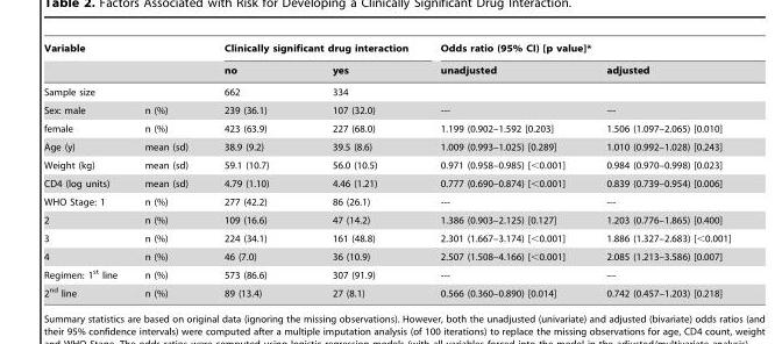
<table><thead><tr><td colspan="2">Variable</td><td colspan="2">Clinically significant drug interaction</td><td colspan="2">Odds ratio (95% CI) [p value]*</td></tr><tr><td></td><td></td><td>no</td><td>yes</td><td>unadjusted</td><td>adjusted</td></tr></thead><tbody><tr><td>Sample size</td><td></td><td>662</td><td>334</td><td></td><td></td></tr><tr><td>Sex: male</td><td>n (%)</td><td>239 (36.1)</td><td>107 (32.0)</td><td>---</td><td>---</td></tr><tr><td>female</td><td>n (%)</td><td>423 (63.9)</td><td>227 (68.0)</td><td>1.199 (0.902–1.592 [0.203]</td><td>1.506 (1.097–2.065) [0.010]</td></tr><tr><td>Age (y)</td><td>mean (sd)</td><td>38.9 (9.2)</td><td>39.5 (8.6)</td><td>1.009 (0.993–1.025) [0.289]</td><td>1.010 (0.992–1.028) [0.243]</td></tr><tr><td>Weight (kg)</td><td>mean (sd)</td><td>59.1 (10.7)</td><td>56.0 (10.5)</td><td>0.971 (0.958–0.985) [&lt;0.001]</td><td>0.984 (0.970–0.998) [0.023]</td></tr><tr><td>CD4 (log units)</td><td>mean (sd)</td><td>4.79 (1.10)</td><td>4.46 (1.21)</td><td>0.777 (0.690–0.874) [&lt;0.001]</td><td>0.839 (0.739–0.954) [0.006]</td></tr><tr><td>WHO Stage: 1</td><td>n (%)</td><td>277 (42.2)</td><td>86 (26.1)</td><td>---</td><td>---</td></tr><tr><td>2</td><td>n (%)</td><td>109 (16.6)</td><td>47 (14.2)</td><td>1.386 (0.903–2.125) [0.127]</td><td>1.203 (0.776–1.865) [0.400]</td></tr><tr><td>3</td><td>n (%)</td><td>224 (34.1)</td><td>161 (48.8)</td><td>2.301 (1.667–3.174) [&lt;0.001]</td><td>1.886 (1.327–2.683) [&lt;0.001]</td></tr><tr><td>4</td><td>n (%)</td><td>46 (7.0)</td><td>36 (10.9)</td><td>2.507 (1.508–4.166) [&lt;0.001]</td><td>2.085 (1.213–3.586) [0.007]</td></tr><tr><td>Regimen: 1<sup>st</sup> line</td><td>n (%)</td><td>573 (86.6)</td><td>307 (91.9)</td><td>---</td><td>---</td></tr><tr><td>2<sup>nd</sup> line</td><td>n (%)</td><td>89 (13.4)</td><td>27 (8.1)</td><td>0.566 (0.360–0.890) [0.014]</td><td>0.742 (0.457–1.203) [0.218]</td></tr></tbody></table>